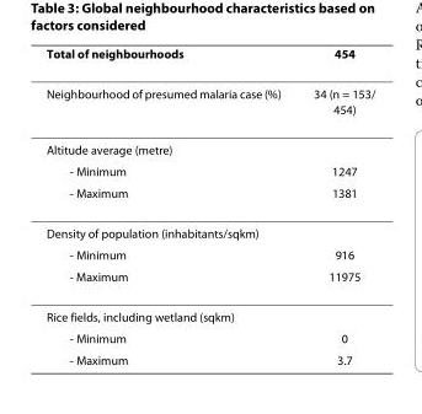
<table><thead><tr><td>Total of neighbourhoods</td><td>454</td></tr></thead><tbody><tr><td>Neighbourhood of presumed malaria case (%)</td><td>34 (n = 153/ 454)</td></tr><tr><td colspan="2">Altitude average (metre)</td></tr><tr><td>- Minimum</td><td>1247</td></tr><tr><td>- Maximum</td><td>1381</td></tr><tr><td colspan="2">Density of population (inhabitants/sqkm)</td></tr><tr><td>- Minimum</td><td>916</td></tr><tr><td>- Maximum</td><td>11975</td></tr><tr><td colspan="2">Rice fields, including wetland (sqkm)</td></tr><tr><td>- Minimum</td><td>0</td></tr><tr><td>- Maximum</td><td>3.7</td></tr></tbody></table>